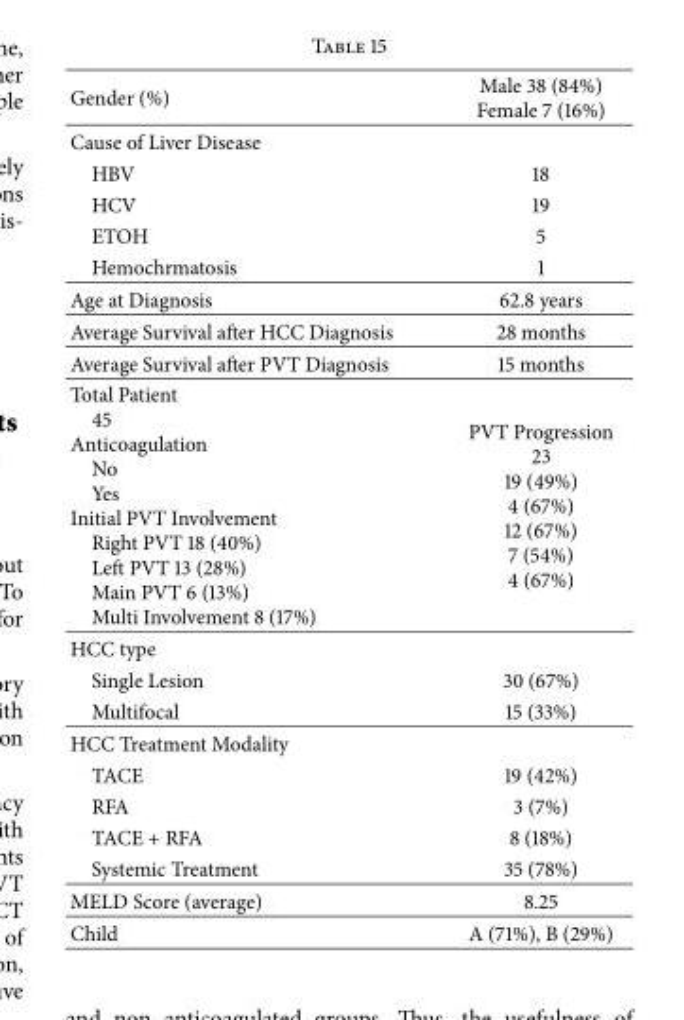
<table><tbody><tr><td>Gender (%)</td><td>Male 38 (84%) Female 7 (16%)</td></tr><tr><td colspan="2">Cause of Liver Disease</td></tr><tr><td>HBV</td><td>18</td></tr><tr><td>HCV</td><td>19</td></tr><tr><td>ETOH</td><td>5</td></tr><tr><td>Hemochrmatosis</td><td>1</td></tr><tr><td>Age at Diagnosis</td><td>62.8 years</td></tr><tr><td>Average Survival after HCC Diagnosis</td><td>28 months</td></tr><tr><td>Average Survival after PVT Diagnosis</td><td>15 months</td></tr><tr><td>Total Patient 45 Anticoagulation No Yes Initial PVT Involvement Right PVT 18 (40%) Left PVT 13 (28%) Main PVT 6 (13%) Multi Involvement 8 (17%)</td><td>PVT Progression 23 19 (49%) 4 (67%) 12 (67%) 7 (54%) 4 (67%)</td></tr><tr><td colspan="2">HCC type</td></tr><tr><td>Single Lesion</td><td>30 (67%)</td></tr><tr><td>Multifocal</td><td>15 (33%)</td></tr><tr><td colspan="2">HCC Treatment Modality</td></tr><tr><td>TACE</td><td>19 (42%)</td></tr><tr><td>RFA</td><td>3 (7%)</td></tr><tr><td>TACE + RFA</td><td>8 (18%)</td></tr><tr><td>Systemic Treatment</td><td>35 (78%)</td></tr><tr><td>MELD Score (average)</td><td>8.25</td></tr><tr><td>Child</td><td>A (71%), B (29%)</td></tr></tbody></table>